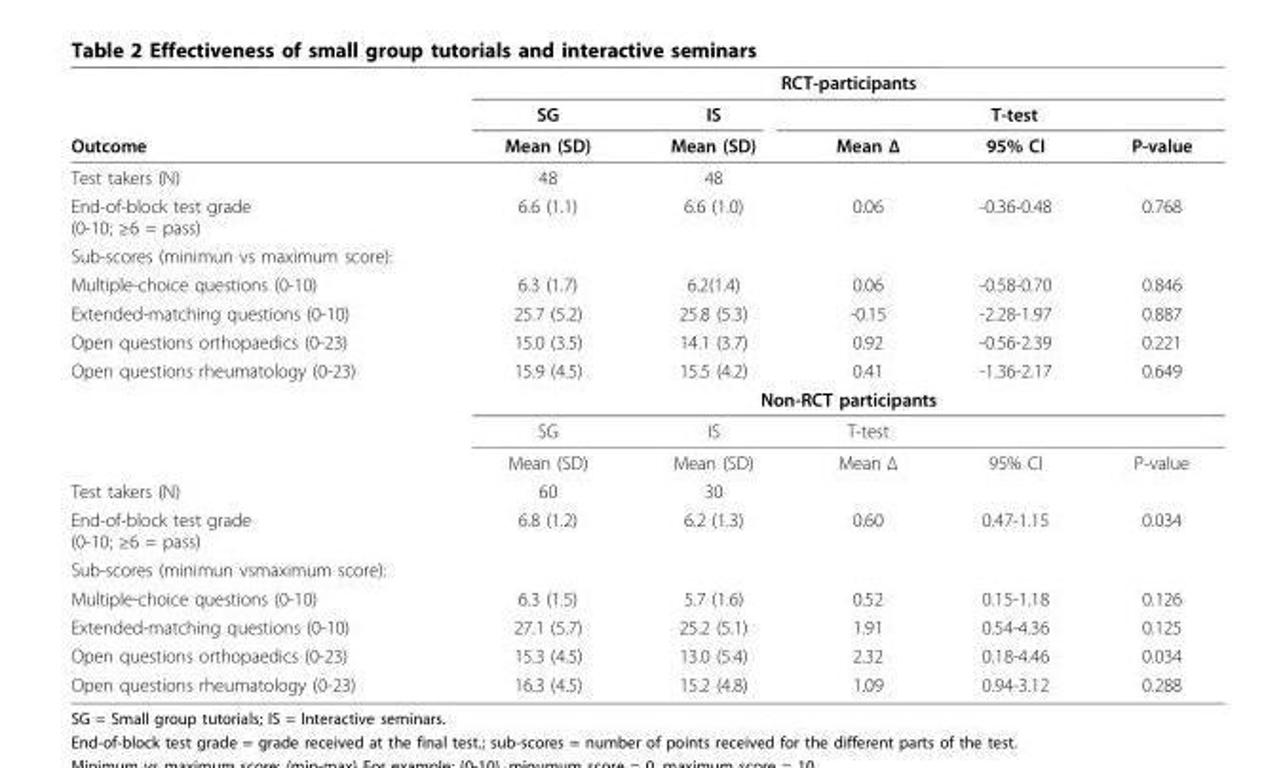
<table><thead><tr><td rowspan="3">Outcome</td><td colspan="5">RCT-participants</td></tr><tr><td rowspan="2">SG Mean (SD)</td><td rowspan="2">IS Mean (SD)</td><td colspan="3">T-test</td></tr><tr><td>Mean Δ</td><td>95% CI</td><td>P-value</td></tr></thead><tbody><tr><td>Test takers (N)</td><td>48</td><td>48</td><td></td><td></td><td></td></tr><tr><td>End-of-block test grade (0-10; ≥6 = pass)</td><td>6.6 (1.1)</td><td>6.6 (1.0)</td><td>0.06</td><td>-0.36-0.48</td><td>0.768</td></tr><tr><td colspan="6">Sub-scores (minimun vs maximum score):</td></tr><tr><td>Multiple-choice questions (0-10)</td><td>6.3 (1.7)</td><td>6.2(1.4)</td><td>0.06</td><td>-0.58-0.70</td><td>0.846</td></tr><tr><td>Extended-matching questions (0-10)</td><td>25.7 (5.2)</td><td>25.8 (5.3)</td><td>-0.15</td><td>-2.28-1.97</td><td>0.887</td></tr><tr><td>Open questions orthopaedics (0-23)</td><td>15.0 (3.5)</td><td>14.1 (3.7)</td><td>0.92</td><td>-0.56-2.39</td><td>0.221</td></tr><tr><td rowspan="4">Open questions rheumatology (0-23)</td><td>15.9 (4.5)</td><td>15.5 (4.2)</td><td>0.41</td><td>-1.36-2.17</td><td>0.649</td></tr><tr><td colspan="5">Non-RCT participants</td></tr><tr><td>SG</td><td>IS</td><td>T-test</td><td></td><td></td></tr><tr><td>Mean (SD)</td><td>Mean (SD)</td><td>Mean Δ</td><td>95% CI</td><td>P-value</td></tr><tr><td>Test takers (N)</td><td>60</td><td>30</td><td></td><td></td><td></td></tr><tr><td>End-of-block test grade (0-10; ≥6 = pass)</td><td>6.8 (1.2)</td><td>6.2 (1.3)</td><td>0.60</td><td>0.47-1.15</td><td>0.034</td></tr><tr><td colspan="6">Sub-scores (minimun vsmaximum score):</td></tr><tr><td>Multiple-choice questions (0-10)</td><td>6.3 (1.5)</td><td>5.7 (1.6)</td><td>0.52</td><td>0.15-1.18</td><td>0.126</td></tr><tr><td>Extended-matching questions (0-10)</td><td>27.1 (5.7)</td><td>25.2 (5.1)</td><td>1.91</td><td>0.54-4.36</td><td>0.125</td></tr><tr><td>Open questions orthopaedics (0-23)</td><td>15.3 (4.5)</td><td>13.0 (5.4)</td><td>2.32</td><td>0.18-4.46</td><td>0.034</td></tr><tr><td>Open questions rheumatology (0-23)</td><td>16.3 (4.5)</td><td>15.2 (4.8)</td><td>1.09</td><td>0.94-3.12</td><td>0.288</td></tr></tbody></table>